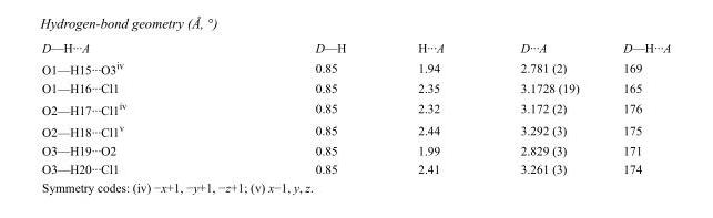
<table><tbody><tr><td>D—H···A</td><td>D—H</td><td>H···A</td><td>D···A</td><td>D—H···A</td></tr><tr><td>O1—H15···O3<sup>iv</sup></td><td>0.85</td><td>1.94</td><td>2.781 (2)</td><td>169</td></tr><tr><td>O1—H16···Cl1</td><td>0.85</td><td>2.35</td><td>3.1728 (19)</td><td>165</td></tr><tr><td>O2—H17···Cl1<sup>iv</sup></td><td>0.85</td><td>2.32</td><td>3.172 (2)</td><td>176</td></tr><tr><td>O2—H18···Cl1<sup>v</sup></td><td>0.85</td><td>2.44</td><td>3.292 (3)</td><td>175</td></tr><tr><td>O3—H19···O2</td><td>0.85</td><td>1.99</td><td>2.829 (3)</td><td>171</td></tr><tr><td>O3—H20···Cl1</td><td>0.85</td><td>2.41</td><td>3.261 (3)</td><td>174</td></tr></tbody></table>